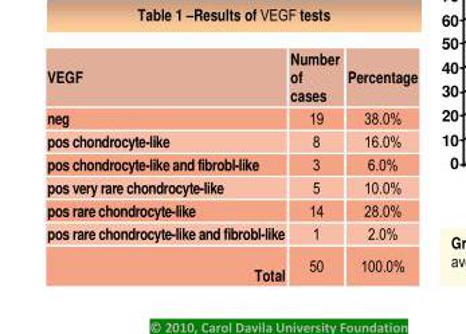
<table><thead><tr><td>VEGF</td><td>Number of cases</td><td>Percentage</td></tr></thead><tbody><tr><td>neg</td><td>19</td><td>38.0%</td></tr><tr><td>pos chondrocyte-like</td><td>8</td><td>16.0%</td></tr><tr><td>pos chondrocyte-like and fibrobl-like</td><td>3</td><td>6.0%</td></tr><tr><td>pos very rare chondrocyte-like</td><td>5</td><td>10.0%</td></tr><tr><td>pos rare chondrocyte-like</td><td>14</td><td>28.0%</td></tr><tr><td>pos rare chondrocyte-like and fibrobl-like</td><td>1</td><td>2.0%</td></tr><tr><td>Total</td><td>50</td><td>100.0%</td></tr></tbody></table>